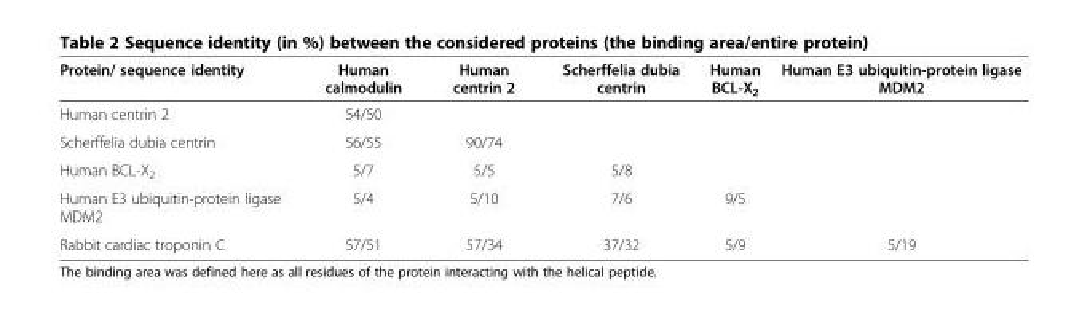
<table><thead><tr><td>Protein/ sequence identity</td><td>Human calmodulin</td><td>Human centrin 2</td><td>Scherffelia dubia centrin</td><td>Human BCL-X<sub>2</sub></td><td>Human E3 ubiquitin-protein ligase MDM2</td></tr></thead><tbody><tr><td>Human centrin 2</td><td>54/50</td><td></td><td></td><td></td><td></td></tr><tr><td>Scherffelia dubia centrin</td><td>56/55</td><td>90/74</td><td></td><td></td><td></td></tr><tr><td>Human BCL-X<sub>2</sub></td><td>5/7</td><td>5/5</td><td>5/8</td><td></td><td></td></tr><tr><td>Human E3 ubiquitin-protein ligase MDM2</td><td>5/4</td><td>5/10</td><td>7/6</td><td>9/5</td><td></td></tr><tr><td>Rabbit cardiac troponin C</td><td>57/51</td><td>57/34</td><td>37/32</td><td>5/9</td><td>5/19</td></tr></tbody></table>